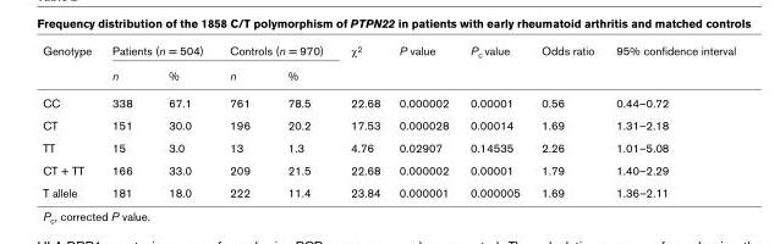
<table><thead><tr><td rowspan="2">Genotype</td><td colspan="2">Patients (n = 504)</td><td colspan="2">Controls (n = 970)</td><td rowspan="2">χ<sup>2</sup></td><td rowspan="2">P value</td><td rowspan="2">P<sub>c</sub> value</td><td rowspan="2">Odds ratio</td><td rowspan="2">95% confidence interval</td></tr><tr><td>n</td><td>%</td><td>n</td><td>%</td></tr></thead><tbody><tr><td>CC</td><td>338</td><td>67.1</td><td>761</td><td>78.5</td><td>22.68</td><td>0.000002</td><td>0.00001</td><td>0.56</td><td>0.44–0.72</td></tr><tr><td>CT</td><td>151</td><td>30.0</td><td>196</td><td>20.2</td><td>17.53</td><td>0.000028</td><td>0.00014</td><td>1.69</td><td>1.31–2.18</td></tr><tr><td>TT</td><td>15</td><td>3.0</td><td>13</td><td>1.3</td><td>4.76</td><td>0.02907</td><td>0.14535</td><td>2.26</td><td>1.01–5.08</td></tr><tr><td>CT + TT</td><td>166</td><td>33.0</td><td>209</td><td>21.5</td><td>22.68</td><td>0.000002</td><td>0.00001</td><td>1.79</td><td>1.40–2.29</td></tr><tr><td>T allele</td><td>181</td><td>18.0</td><td>222</td><td>11.4</td><td>23.84</td><td>0.000001</td><td>0.000005</td><td>1.69</td><td>1.36–2.11</td></tr></tbody></table>